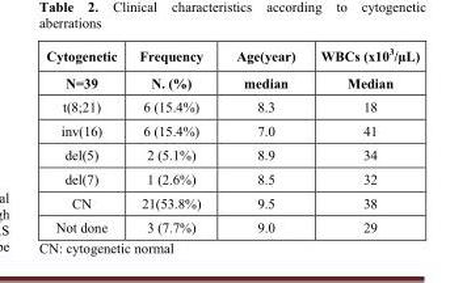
<table><thead><tr><td rowspan="2">Cytogenetic N=39</td><td rowspan="2">Frequency N. (%)</td><td rowspan="2">Age(year) median</td><td rowspan="2">WBCs (x103/µL) Median</td></tr><tr></tr></thead><tbody><tr><td>t(8;21)</td><td>6 (15.4%)</td><td>8.3</td><td>18</td></tr><tr><td>inv(16)</td><td>6 (15.4%)</td><td>7.0</td><td>41</td></tr><tr><td>del(5)</td><td>2 (5.1%)</td><td>8.9</td><td>34</td></tr><tr><td>del(7)</td><td>1 (2.6%)</td><td>8.5</td><td>32</td></tr><tr><td>CN</td><td>21(53.8%)</td><td>9.5</td><td>38</td></tr><tr><td>Not done</td><td>3 (7.7%)</td><td>9.0</td><td>29</td></tr></tbody></table>